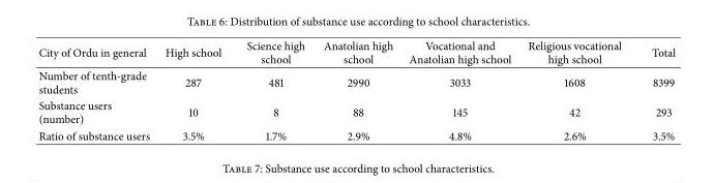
<table><thead><tr><td>City of Ordu in general</td><td>High school</td><td>Science high school</td><td>Anatolian high school</td><td>Vocational and Anatolian high school</td><td>Religious vocational high school</td><td>Total</td></tr></thead><tbody><tr><td>Number of tenth-grade students</td><td>287</td><td>481</td><td>2990</td><td>3033</td><td>1608</td><td>8399</td></tr><tr><td>Substance users (number)</td><td>10</td><td>8</td><td>88</td><td>145</td><td>42</td><td>293</td></tr><tr><td>Ratio of substance users</td><td>3.5%</td><td>1.7%</td><td>2.9%</td><td>4.8%</td><td>2.6%</td><td>3.5%</td></tr></tbody></table>